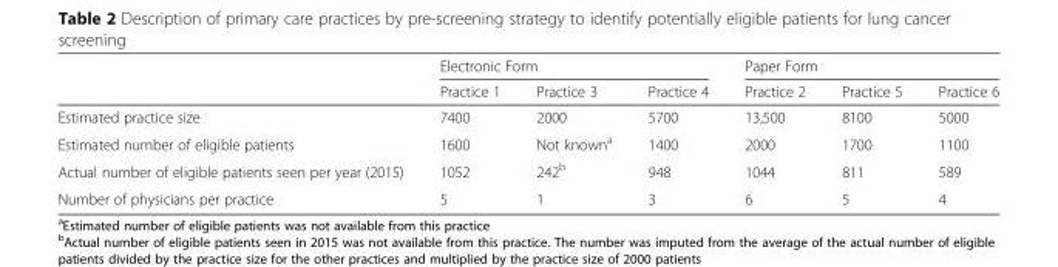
<table><thead><tr><td rowspan="2"></td><td colspan="3">Electronic Form</td><td colspan="3">Paper Form</td></tr><tr><td>Practice 1</td><td>Practice 3</td><td>Practice 4</td><td>Practice 2</td><td>Practice 5</td><td>Practice 6</td></tr></thead><tbody><tr><td>Estimated practice size</td><td>7400</td><td>2000</td><td>5700</td><td>13,500</td><td>8100</td><td>5000</td></tr><tr><td>Estimated number of eligible patients</td><td>1600</td><td>Not known<sup>a</sup></td><td>1400</td><td>2000</td><td>1700</td><td>1100</td></tr><tr><td>Actual number of eligible patients seen per year (2015)</td><td>1052</td><td>242<sup>b</sup></td><td>948</td><td>1044</td><td>811</td><td>589</td></tr><tr><td>Number of physicians per practice</td><td>5</td><td>1</td><td>3</td><td>6</td><td>5</td><td>4</td></tr></tbody></table>